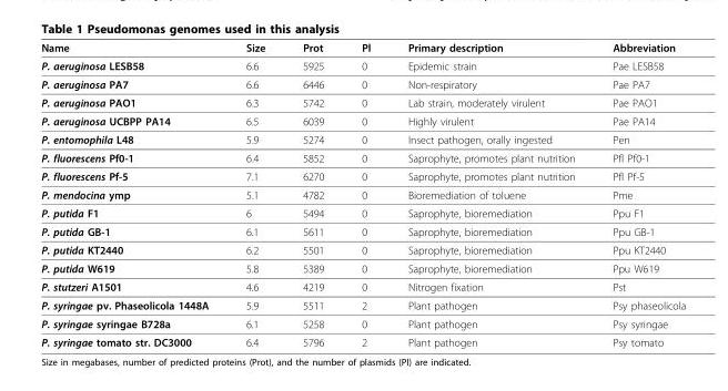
<table><thead><tr><td>Name</td><td>Size</td><td>Prot</td><td>Pl</td><td>Primary description</td><td>Abbreviation</td></tr></thead><tbody><tr><td>P. aeruginosa LESB58</td><td>6.6</td><td>5925</td><td>0</td><td>Epidemic strain</td><td>Pae LESB58</td></tr><tr><td>P. aeruginosa PA7</td><td>6.6</td><td>6446</td><td>0</td><td>Non-respiratory</td><td>Pae PA7</td></tr><tr><td>P. aeruginosa PAO1</td><td>6.3</td><td>5742</td><td>0</td><td>Lab strain, moderately virulent</td><td>Pae PAO1</td></tr><tr><td>P. aeruginosa UCBPP PA14</td><td>6.5</td><td>6039</td><td>0</td><td>Highly virulent</td><td>Pae PA14</td></tr><tr><td>P. entomophila L48</td><td>5.9</td><td>5274</td><td>0</td><td>Insect pathogen, orally ingested</td><td>Pen</td></tr><tr><td>P. fluorescens Pf0-1</td><td>6.4</td><td>5852</td><td>0</td><td>Saprophyte, promotes plant nutrition</td><td>Pfl Pf0-1</td></tr><tr><td>P. fluorescens Pf-5</td><td>7.1</td><td>6270</td><td>0</td><td>Saprophyte, promotes plant nutrition</td><td>Pfl Pf-5</td></tr><tr><td>P. mendocina ymp</td><td>5.1</td><td>4782</td><td>0</td><td>Bioremediation of toluene</td><td>Pme</td></tr><tr><td>P. putida F1</td><td>6</td><td>5494</td><td>0</td><td>Saprophyte, bioremediation</td><td>Ppu F1</td></tr><tr><td>P. putida GB-1</td><td>6.1</td><td>5611</td><td>0</td><td>Saprophyte, bioremediation</td><td>Ppu GB-1</td></tr><tr><td>P. putida KT2440</td><td>6.2</td><td>5501</td><td>0</td><td>Saprophyte, bioremediation</td><td>Ppu KT2440</td></tr><tr><td>P. putida W619</td><td>5.8</td><td>5389</td><td>0</td><td>Saprophyte, bioremediation</td><td>Ppu W619</td></tr><tr><td>P. stutzeri A1501</td><td>4.6</td><td>4219</td><td>0</td><td>Nitrogen fixation</td><td>Pst</td></tr><tr><td>P. syringae pv. Phaseolicola 1448A</td><td>5.9</td><td>5511</td><td>2</td><td>Plant pathogen</td><td>Psy phaseolicola</td></tr><tr><td>P. syringae syringae B728a</td><td>6.1</td><td>5258</td><td>0</td><td>Plant pathogen</td><td>Psy syringae</td></tr><tr><td>P. syringae tomato str. DC3000</td><td>6.4</td><td>5796</td><td>2</td><td>Plant pathogen</td><td>Psy tomato</td></tr></tbody></table>